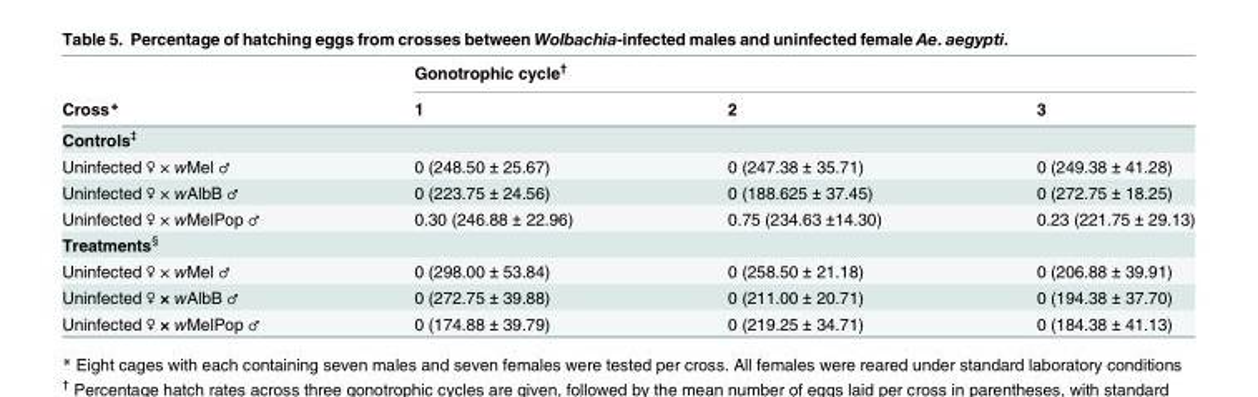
<table><thead><tr><td rowspan="2">Cross*</td><td colspan="3">Gonotrophic cycle<sup>†</sup></td></tr><tr><td>1</td><td>2</td><td>3</td></tr></thead><tbody><tr><td colspan="4">Controls<sup>‡</sup></td></tr><tr><td>Uninfected ♀ × wMel ♂</td><td>0 (248.50 ± 25.67)</td><td>0 (247.38 ± 35.71)</td><td>0 (249.38 ± 41.28)</td></tr><tr><td>Uninfected ♀ × wAlbB ♂</td><td>0 (223.75 ± 24.56)</td><td>0 (188.625 ± 37.45)</td><td>0 (272.75 ± 18.25)</td></tr><tr><td>Uninfected ♀ × wMelPop ♂</td><td>0.30 (246.88 ± 22.96)</td><td>0.75 (234.63 ±14.30)</td><td>0.23 (221.75 ± 29.13)</td></tr><tr><td colspan="4">Treatments<sup>§</sup></td></tr><tr><td>Uninfected ♀ × wMel ♂</td><td>0 (298.00 ± 53.84)</td><td>0 (258.50 ± 21.18)</td><td>0 (206.88 ± 39.91)</td></tr><tr><td>Uninfected ♀ × wAlbB ♂</td><td>0 (272.75 ± 39.88)</td><td>0 (211.00 ± 20.71)</td><td>0 (194.38 ± 37.70)</td></tr><tr><td>Uninfected ♀ × wMelPop ♂</td><td>0 (174.88 ± 39.79)</td><td>0 (219.25 ± 34.71)</td><td>0 (184.38 ± 41.13)</td></tr></tbody></table>